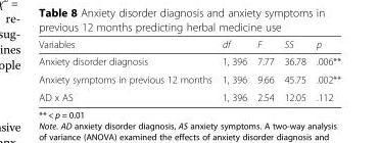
<table><thead><tr><td>Variables</td><td>df</td><td>F</td><td>SS</td><td>p</td></tr></thead><tbody><tr><td>Anxiety disorder diagnosis</td><td>1, 396</td><td>7.77</td><td>36.78</td><td>.006**</td></tr><tr><td>Anxiety symptoms in previous 12 months</td><td>1, 396</td><td>9.66</td><td>45.75</td><td>.002**</td></tr><tr><td>AD x AS</td><td>1, 396</td><td>2.54</td><td>12.05</td><td>.112</td></tr></tbody></table>